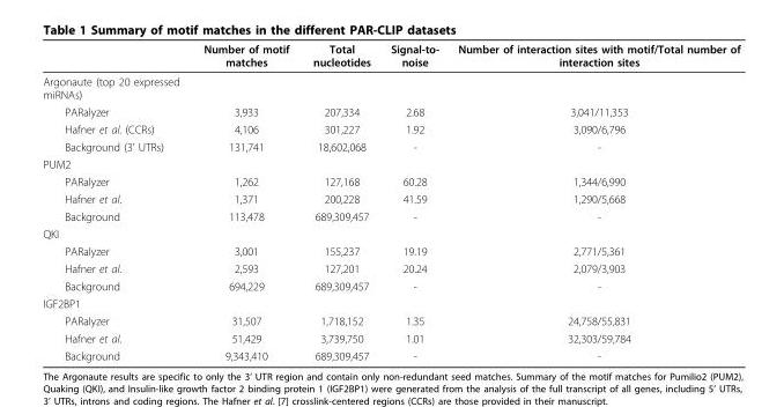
<table><thead><tr><td></td><td>Number of motif matches</td><td>Total nucleotides</td><td>Signal-to- noise</td><td>Number of interaction sites with motif/Total number of interaction sites</td></tr></thead><tbody><tr><td colspan="5">Argonaute (top 20 expressed miRNAs)</td></tr><tr><td>PARalyzer</td><td>3,933</td><td>207,334</td><td>2.68</td><td>3,041/11,353</td></tr><tr><td>Hafner et al. (CCRs)</td><td>4,106</td><td>301,227</td><td>1.92</td><td>3,090/6,796</td></tr><tr><td>Background (3’ UTRs)</td><td>131,741</td><td>18,602,068</td><td>-</td><td>-</td></tr><tr><td colspan="5">PUM2</td></tr><tr><td>PARalyzer</td><td>1,262</td><td>127,168</td><td>60.28</td><td>1,344/6,990</td></tr><tr><td>Hafner et al.</td><td>1,371</td><td>200,228</td><td>41.59</td><td>1,290/5,668</td></tr><tr><td>Background</td><td>113,478</td><td>689,309,457</td><td>-</td><td>-</td></tr><tr><td colspan="5">QKI</td></tr><tr><td>PARalyzer</td><td>3,001</td><td>155,237</td><td>19.19</td><td>2,771/5,361</td></tr><tr><td>Hafner et al.</td><td>2,593</td><td>127,201</td><td>20.24</td><td>2,079/3,903</td></tr><tr><td>Background</td><td>694,229</td><td>689,309,457</td><td>-</td><td>-</td></tr><tr><td colspan="5">IGF2BP1</td></tr><tr><td>PARalyzer</td><td>31,507</td><td>1,718,152</td><td>1.35</td><td>24,758/55,831</td></tr><tr><td>Hafner et al.</td><td>51,429</td><td>3,739,750</td><td>1.01</td><td>32,303/59,784</td></tr><tr><td>Background</td><td>9,343,410</td><td>689,309,457</td><td>-</td><td>-</td></tr></tbody></table>